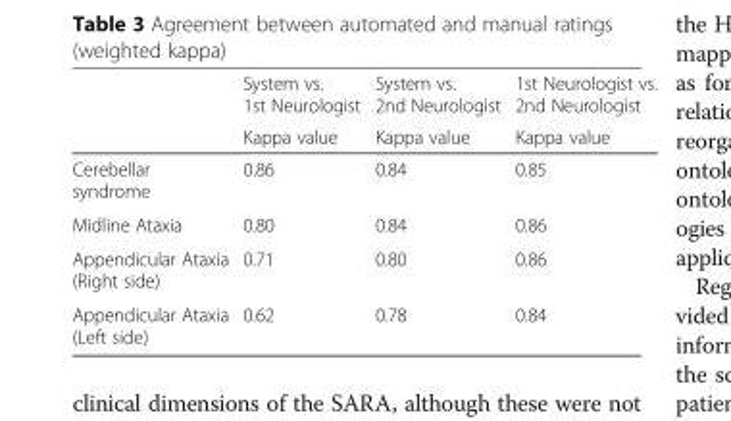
<table><thead><tr><td rowspan="2"></td><td rowspan="2">System vs. 1st Neurologist Kappa value</td><td rowspan="2">System vs. 2nd Neurologist Kappa value</td><td rowspan="2">1st Neurologist vs. 2nd Neurologist Kappa value</td></tr><tr></tr></thead><tbody><tr><td>Cerebellar syndrome</td><td>0.86</td><td>0.84</td><td>0.85</td></tr><tr><td>Midline Ataxia</td><td>0.80</td><td>0.84</td><td>0.86</td></tr><tr><td>Appendicular Ataxia (Right side)</td><td>0.71</td><td>0.80</td><td>0.86</td></tr><tr><td>Appendicular Ataxia (Left side)</td><td>0.62</td><td>0.78</td><td>0.84</td></tr></tbody></table>